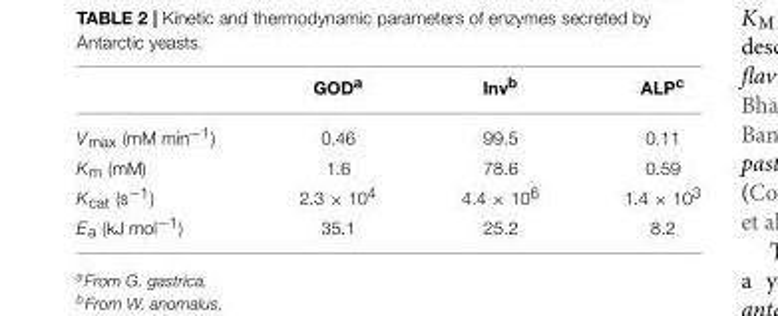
<table><thead><tr><td></td><td>GOD<sup>a</sup></td><td>Inv<sup>b</sup></td><td>ALP<sup>c</sup></td></tr></thead><tbody><tr><td>V<sub>max</sub> (mM min<sup>−1</sup>)</td><td>0.46</td><td>99.5</td><td>0.11</td></tr><tr><td>K<sub>m</sub> (mM)</td><td>1.6</td><td>78.6</td><td>0.59</td></tr><tr><td>K<sub>cat</sub> (s<sup>−1</sup>)</td><td>2.3 × 10<sup>4</sup></td><td>4.4 × 10<sup>6</sup></td><td>1.4 × 10<sup>3</sup></td></tr><tr><td>E<sub>a</sub> (kJ mol<sup>−1</sup>)</td><td>35.1</td><td>25.2</td><td>8.2</td></tr></tbody></table>